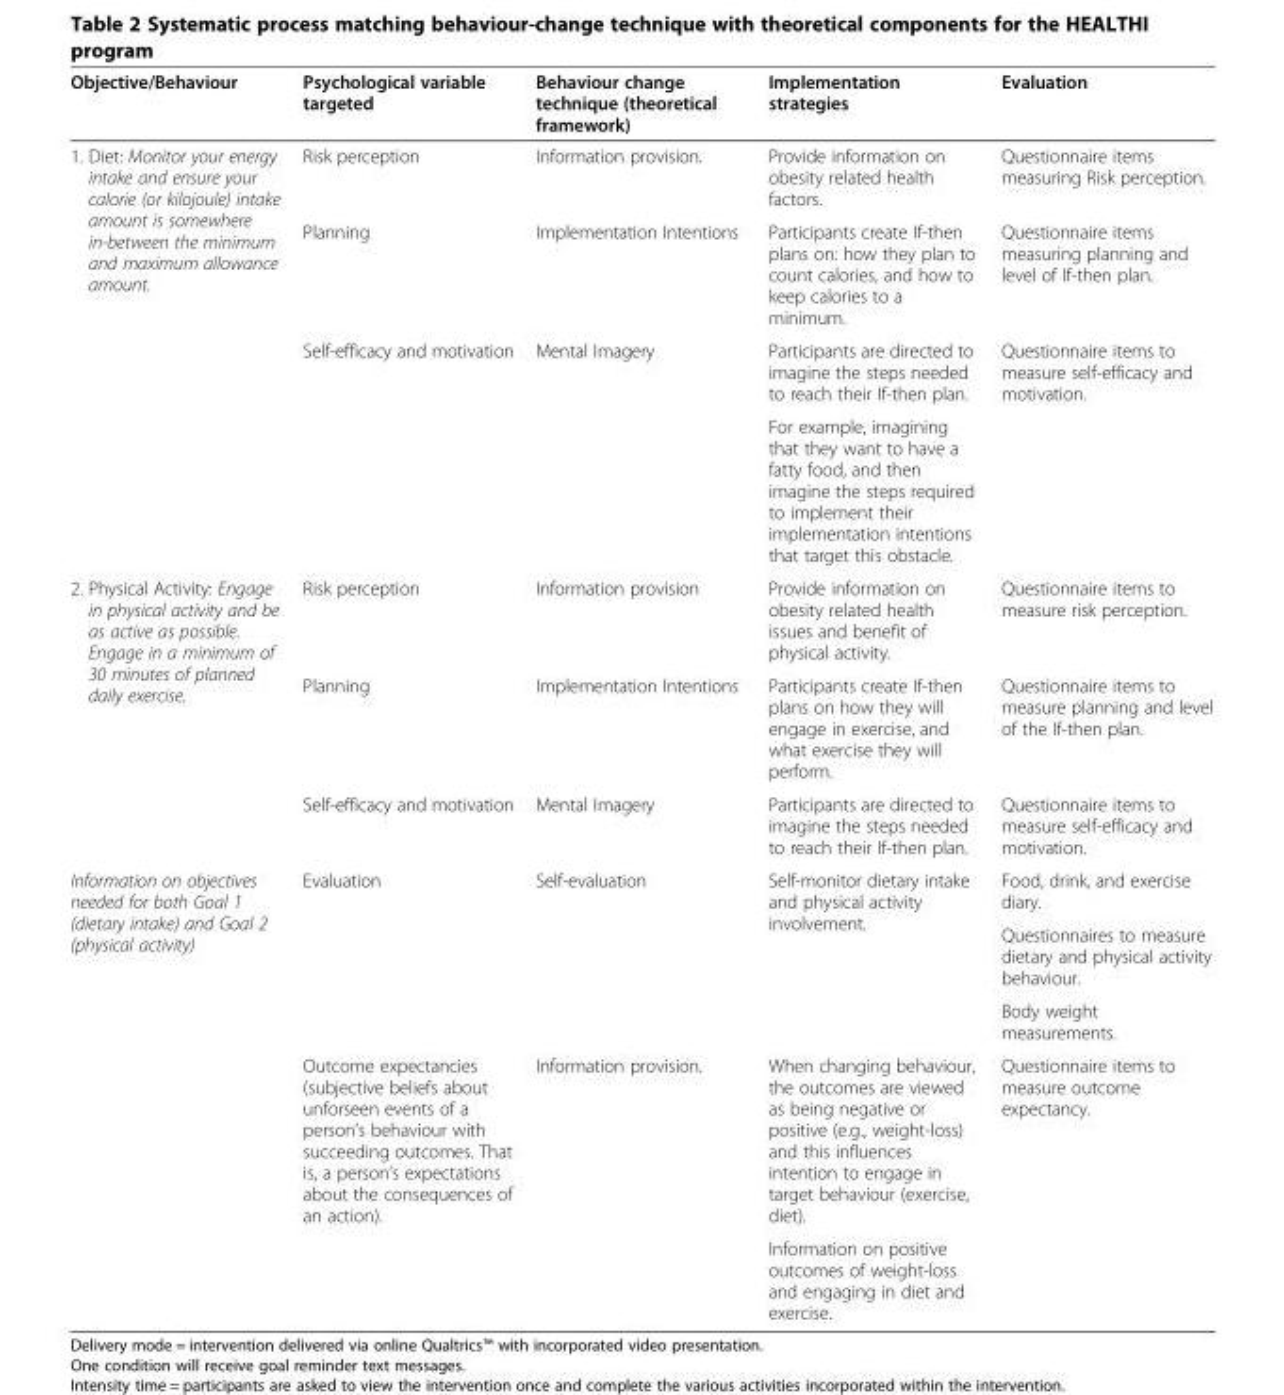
<table><thead><tr><td>Objective/Behaviour</td><td>Psychological variable targeted</td><td>Behaviour change technique (theoretical framework)</td><td>Implementation strategies</td><td>Evaluation</td></tr></thead><tbody><tr><td rowspan="4">1. Diet: Monitor your energy intake and ensure your calorie (or kilojoule) intake amount is somewhere in-between the minimum and maximum allowance amount.</td><td>Risk perception</td><td>Information provision.</td><td>Provide information on obesity related health factors.</td><td>Questionnaire items measuring Risk perception.</td></tr><tr><td>Planning</td><td>Implementation Intentions</td><td>Participants create If-then plans on: how they plan to count calories, and how to keep calories to a minimum.</td><td>Questionnaire items measuring planning and level of If-then plan.</td></tr><tr><td>Self-efficacy and motivation</td><td>Mental Imagery</td><td>Participants are directed to imagine the steps needed to reach their If-then plan.</td><td>Questionnaire items to measure self-efficacy and motivation.</td></tr><tr><td></td><td></td><td>For example, imagining that they want to have a fatty food, and then imagine the steps required to implement their implementation intentions that target this obstacle.</td><td></td></tr><tr><td rowspan="3">2. Physical Activity: Engage in physical activity and be as active as possible. Engage in a minimum of 30 minutes of planned daily exercise.</td><td>Risk perception</td><td>Information provision</td><td>Provide information on obesity related health issues and benefit of physical activity.</td><td>Questionnaire items to measure risk perception.</td></tr><tr><td>Planning</td><td>Implementation Intentions</td><td>Participants create If-then plans on how they will engage in exercise, and what exercise they will perform.</td><td>Questionnaire items to measure planning and level of the If-then plan.</td></tr><tr><td>Self-efficacy and motivation</td><td>Mental Imagery</td><td>Participants are directed to imagine the steps needed to reach their If-then plan.</td><td>Questionnaire items to measure self-efficacy and motivation.</td></tr><tr><td rowspan="5">Information on objectives needed for both Goal 1 (dietary intake) and Goal 2 (physical activity)</td><td rowspan="3">Evaluation</td><td rowspan="3">Self-evaluation</td><td rowspan="3">Self-monitor dietary intake and physical activity involvement.</td><td>Food, drink, and exercise diary.</td></tr><tr><td>Questionnaires to measure dietary and physical activity behaviour.</td></tr><tr><td>Body weight measurements.</td></tr><tr><td rowspan="2">Outcome expectancies (subjective beliefs about unforseen events of a person’s behaviour with succeeding outcomes. That is, a person’s expectations about the consequences of an action).</td><td rowspan="2">Information provision.</td><td>When changing behaviour, the outcomes are viewed as being negative or positive (e.g., weight-loss) and this influences intention to engage in target behaviour (exercise, diet).</td><td rowspan="2">Questionnaire items to measure outcome expectancy.</td></tr><tr><td>Information on positive outcomes of weight-loss and engaging in diet and exercise.</td></tr></tbody></table>